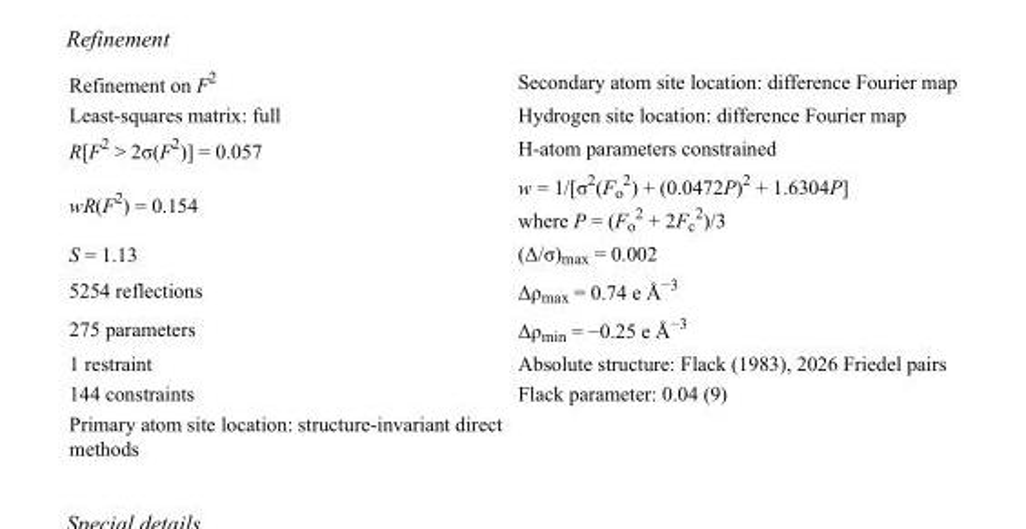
<table><tbody><tr><td>Refinement on F<sup>2</sup></td><td>Secondary atom site location: difference Fourier map</td></tr><tr><td>Least-squares matrix: full</td><td>Hydrogen site location: difference Fourier map</td></tr><tr><td>R[F<sup>2</sup> &gt; 2σ(F<sup>2</sup>)] = 0.057</td><td>H-atom parameters constrained</td></tr><tr><td>wR(F<sup>2</sup>) = 0.154</td><td>w = 1/[σ<sup>2</sup>(F<sub>o</sub> <sup>2</sup>) + (0.0472P)<sup>2</sup> + 1.6304P] where P = (F<sub>o</sub> <sup>2</sup> + 2F<sub>c</sub> <sup>2</sup>)/3</td></tr><tr><td>S = 1.13</td><td>(Δ/σ)<sub>max</sub> = 0.002</td></tr><tr><td>5254 reflections</td><td>Δρ<sub>max</sub> = 0.74 e Å<sup>−3</sup></td></tr><tr><td>275 parameters</td><td>Δρ<sub>min</sub> = −0.25 e Å<sup>−3</sup></td></tr><tr><td>1 restraint</td><td>Absolute structure: Flack (1983), 2026 Friedel pairs</td></tr><tr><td>144 constraints</td><td>Flack parameter: 0.04 (9)</td></tr><tr><td>Primary atom site location: structure-invariant direct methods</td><td></td></tr></tbody></table>